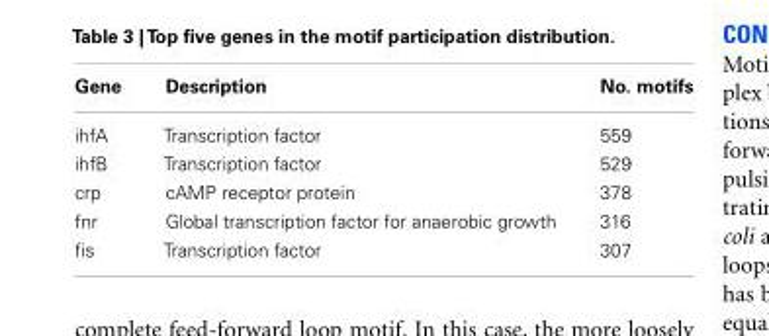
<table><thead><tr><td>Gene</td><td>Description</td><td>No. motifs</td></tr></thead><tbody><tr><td>ihfA</td><td>Transcription factor</td><td>559</td></tr><tr><td>ihfB</td><td>Transcription factor</td><td>529</td></tr><tr><td>crp</td><td>cAMP receptor protein</td><td>378</td></tr><tr><td>fnr</td><td>Global transcription factor for anaerobic growth</td><td>316</td></tr><tr><td>fis</td><td>Transcription factor</td><td>307</td></tr></tbody></table>